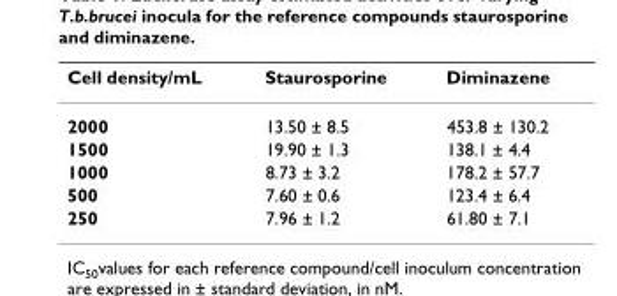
<table><thead><tr><td>Cell density/mL</td><td>Staurosporine</td><td>Diminazene</td></tr></thead><tbody><tr><td>2000</td><td>13.50 ± 8.5</td><td>453.8 ± 130.2</td></tr><tr><td>1500</td><td>19.90 ± 1.3</td><td>138.1 ± 4.4</td></tr><tr><td>1000</td><td>8.73 ± 3.2</td><td>178.2 ± 57.7</td></tr><tr><td>500</td><td>7.60 ± 0.6</td><td>123.4 ± 6.4</td></tr><tr><td>250</td><td>7.96 ± 1.2</td><td>61.80 ± 7.1</td></tr></tbody></table>